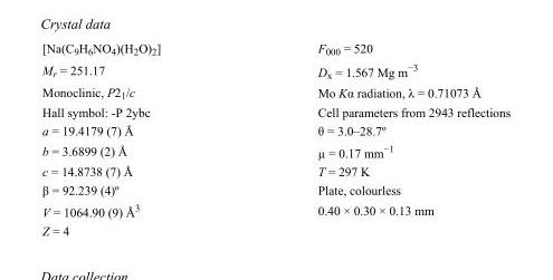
<table><tbody><tr><td>[Na(C<sub>9</sub>H<sub>6</sub>NO<sub>4</sub>)(H<sub>2</sub>O)<sub>2</sub>]</td><td>F000 = 520</td></tr><tr><td>M<sub>r</sub> = 251.17</td><td>D<sub>x</sub> = 1.567 Mg m<sup>−3</sup></td></tr><tr><td>Monoclinic, P2<sub>1</sub>/c</td><td>Mo Kα radiation, λ = 0.71073 Å</td></tr><tr><td>Hall symbol: -P 2ybc</td><td>Cell parameters from 2943 reflections</td></tr><tr><td>a = 19.4179 (7) Å</td><td>θ = 3.0–28.7º</td></tr><tr><td>b = 3.6899 (2) Å</td><td>µ = 0.17 mm<sup>−1</sup></td></tr><tr><td>c = 14.8738 (7) Å</td><td>T = 297 K</td></tr><tr><td>β = 92.239 (4)º</td><td>Plate, colourless</td></tr><tr><td>V = 1064.90 (9) Å<sup>3</sup></td><td>0.40 × 0.30 × 0.13 mm</td></tr><tr><td>Z = 4</td><td></td></tr></tbody></table>